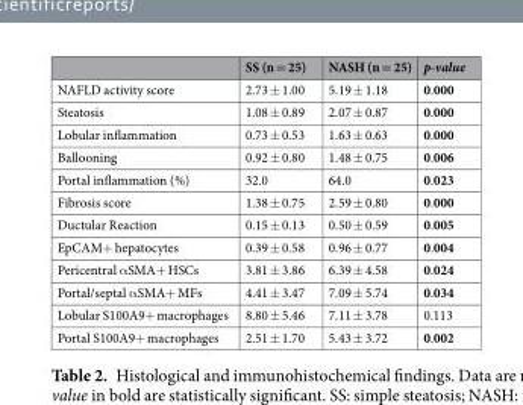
<table><thead><tr><td></td><td>SS (n = 25)</td><td>NASH (n = 25)</td><td>p-value</td></tr></thead><tbody><tr><td>NAFLD activity score</td><td>2.73 ± 1.00</td><td>5.19 ± 1.18</td><td>0.000</td></tr><tr><td>Steatosis</td><td>1.08 ± 0.89</td><td>2.07 ± 0.87</td><td>0.000</td></tr><tr><td>Lobular inflammation</td><td>0.73 ± 0.53</td><td>1.63 ± 0.63</td><td>0.000</td></tr><tr><td>Ballooning</td><td>0.92 ± 0.80</td><td>1.48 ± 0.75</td><td>0.006</td></tr><tr><td>Portal inflammation (%)</td><td>32.0</td><td>64.0</td><td>0.023</td></tr><tr><td>Fibrosis score</td><td>1.38 ± 0.75</td><td>2.59 ± 0.80</td><td>0.000</td></tr><tr><td>Ductular Reaction</td><td>0.15 ± 0.13</td><td>0.50 ± 0.59</td><td>0.005</td></tr><tr><td>EpCAM+ hepatocytes</td><td>0.39 ± 0.58</td><td>0.96 ± 0.77</td><td>0.004</td></tr><tr><td>Pericentral αSMA+ HSCs</td><td>3.81 ± 3.86</td><td>6.39 ± 4.58</td><td>0.024</td></tr><tr><td>Portal/septal αSMA+ MFs</td><td>4.41 ± 3.47</td><td>7.09 ± 5.74</td><td>0.034</td></tr><tr><td>Lobular S100A9+ macrophages</td><td>8.80 ± 5.46</td><td>7.11 ± 3.78</td><td>0.113</td></tr><tr><td>Portal S100A9+ macrophages</td><td>2.51 ± 1.70</td><td>5.43 ± 3.72</td><td>0.002</td></tr></tbody></table>